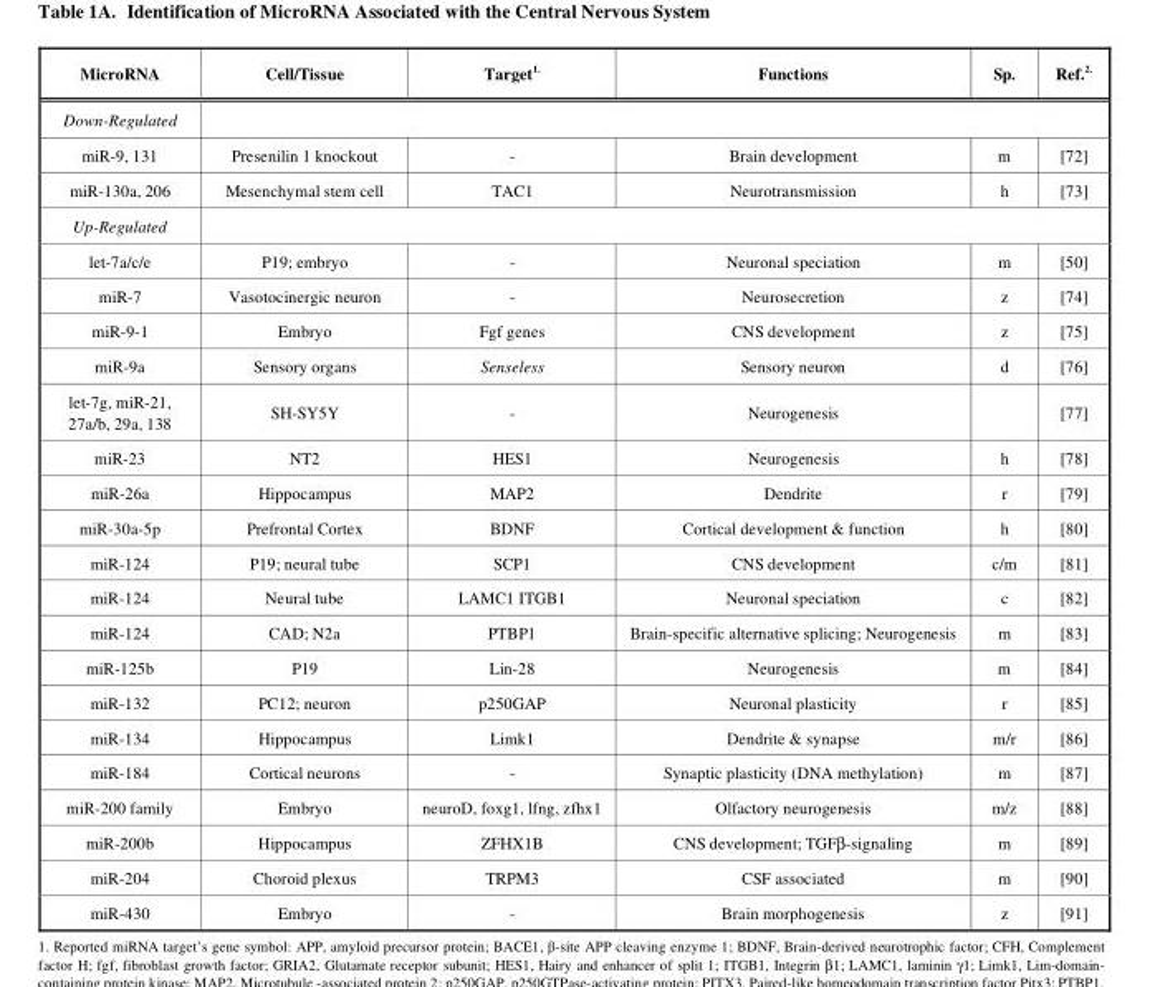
<table><thead><tr><td>MicroRNA</td><td>Cell/Tissue</td><td>Target<sup>1</sup>.</td><td>Functions</td><td>Sp.</td><td>Ref.<sup>2</sup>.</td></tr></thead><tbody><tr><td colspan="6">Down-Regulated</td></tr><tr><td>miR-9, 131</td><td>Presenilin 1 knockout</td><td>-</td><td>Brain development</td><td>m</td><td>[72]</td></tr><tr><td>miR-130a, 206</td><td>Mesenchymal stem cell</td><td>TAC1</td><td>Neurotransmission</td><td>h</td><td>[73]</td></tr><tr><td colspan="6">Up-Regulated</td></tr><tr><td>let-7a/c/e</td><td>P19; embryo</td><td>-</td><td>Neuronal speciation</td><td>m</td><td>[50]</td></tr><tr><td>miR-7</td><td>Vasotocinergic neuron</td><td>-</td><td>Neurosecretion</td><td>z</td><td>[74]</td></tr><tr><td>miR-9-1</td><td>Embryo</td><td>Fgf genes</td><td>CNS development</td><td>z</td><td>[75]</td></tr><tr><td>miR-9a</td><td>Sensory organs</td><td>Senseless</td><td>Sensory neuron</td><td>d</td><td>[76]</td></tr><tr><td>let-7g, miR-21, 27a/b, 29a, 138</td><td>SH-SY5Y</td><td>-</td><td>Neurogenesis</td><td></td><td>[77]</td></tr><tr><td>miR-23</td><td>NT2</td><td>HES1</td><td>Neurogenesis</td><td>h</td><td>[78]</td></tr><tr><td>miR-26a</td><td>Hippocampus</td><td>MAP2</td><td>Dendrite</td><td>r</td><td>[79]</td></tr><tr><td>miR-30a-5p</td><td>Prefrontal Cortex</td><td>BDNF</td><td>Cortical development &amp; function</td><td>h</td><td>[80]</td></tr><tr><td>miR-124</td><td>P19; neural tube</td><td>SCP1</td><td>CNS development</td><td>c/m</td><td>[81]</td></tr><tr><td>miR-124</td><td>Neural tube</td><td>LAMC1 ITGB1</td><td>Neuronal speciation</td><td>c</td><td>[82]</td></tr><tr><td>miR-124</td><td>CAD; N2a</td><td>PTBP1</td><td>Brain-specific alternative splicing; Neurogenesis</td><td>m</td><td>[83]</td></tr><tr><td>miR-125b</td><td>P19</td><td>Lin-28</td><td>Neurogenesis</td><td>m</td><td>[84]</td></tr><tr><td>miR-132</td><td>PC12; neuron</td><td>p250GAP</td><td>Neuronal plasticity</td><td>r</td><td>[85]</td></tr><tr><td>miR-134</td><td>Hippocampus</td><td>Limk1</td><td>Dendrite &amp; synapse</td><td>m/r</td><td>[86]</td></tr><tr><td>miR-184</td><td>Cortical neurons</td><td>-</td><td>Synaptic plasticity (DNA methylation)</td><td>m</td><td>[87]</td></tr><tr><td>miR-200 family</td><td>Embryo</td><td>neuroD, foxg1, lfng, zfhx1</td><td>Olfactory neurogenesis</td><td>m/z</td><td>[88]</td></tr><tr><td>miR-200b</td><td>Hippocampus</td><td>ZFHX1B</td><td>CNS development; TGFβ-signaling</td><td>m</td><td>[89]</td></tr><tr><td>miR-204</td><td>Choroid plexus</td><td>TRPM3</td><td>CSF associated</td><td>m</td><td>[90]</td></tr><tr><td>miR-430</td><td>Embryo</td><td>-</td><td>Brain morphogenesis</td><td>z</td><td>[91]</td></tr></tbody></table>